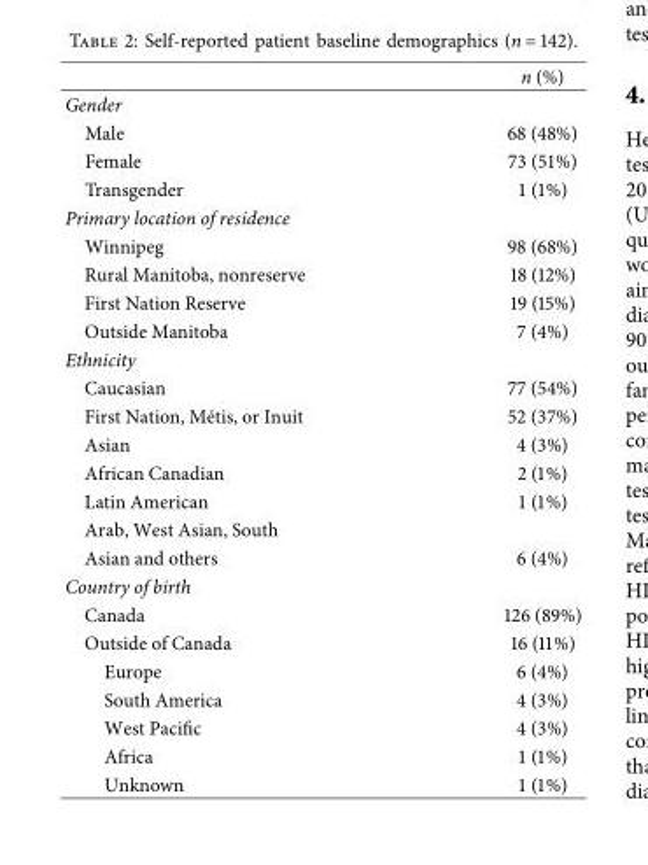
<table><thead><tr><td></td><td>n (%)</td></tr></thead><tbody><tr><td colspan="2">Gender</td></tr><tr><td>Male</td><td>68 (48%)</td></tr><tr><td>Female</td><td>73 (51%)</td></tr><tr><td>Transgender</td><td>1 (1%)</td></tr><tr><td colspan="2">Primary location of residence</td></tr><tr><td>Winnipeg</td><td>98 (68%)</td></tr><tr><td>Rural Manitoba, nonreserve</td><td>18 (12%)</td></tr><tr><td>First Nation Reserve</td><td>19 (15%)</td></tr><tr><td>Outside Manitoba</td><td>7 (4%)</td></tr><tr><td colspan="2">Ethnicity</td></tr><tr><td>Caucasian</td><td>77 (54%)</td></tr><tr><td>First Nation, M´etis, or Inuit</td><td>52 (37%)</td></tr><tr><td>Asian</td><td>4 (3%)</td></tr><tr><td>African Canadian</td><td>2 (1%)</td></tr><tr><td>Latin American</td><td>1 (1%)</td></tr><tr><td colspan="2">Arab, West Asian, South</td></tr><tr><td>Asian and others</td><td>6 (4%)</td></tr><tr><td colspan="2">Country of birth</td></tr><tr><td>Canada</td><td>126 (89%)</td></tr><tr><td>Outside of Canada</td><td>16 (11%)</td></tr><tr><td>Europe</td><td>6 (4%)</td></tr><tr><td>South America</td><td>4 (3%)</td></tr><tr><td>West Pacifc</td><td>4 (3%)</td></tr><tr><td>Africa</td><td>1 (1%)</td></tr><tr><td>Unknown</td><td>1 (1%)</td></tr></tbody></table>